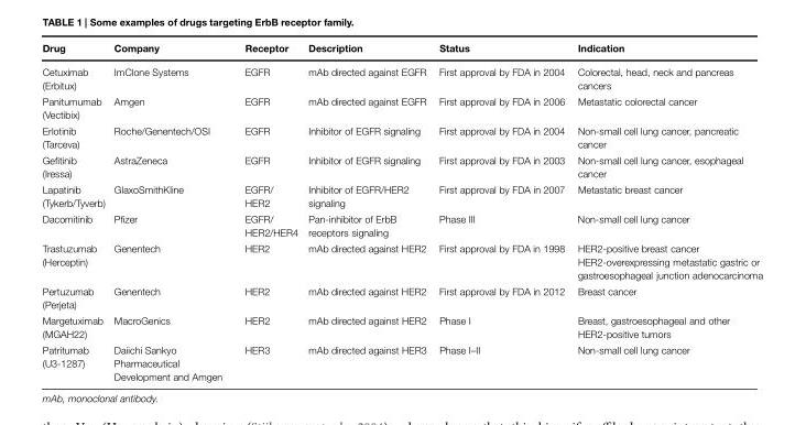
<table><thead><tr><td>Drug</td><td>Company</td><td>Receptor</td><td>Description</td><td>Status</td><td>Indication</td></tr></thead><tbody><tr><td>Cetuximab (Erbitux)</td><td>ImClone Systems</td><td>EGFR</td><td>mAb directed against EGFR</td><td>First approval by FDA in 2004</td><td>Colorectal, head, neck and pancreas cancers</td></tr><tr><td>Panitumumab (Vectibix)</td><td>Amgen</td><td>EGFR</td><td>mAb directed against EGFR</td><td>First approval by FDA in 2006</td><td>Metastatic colorectal cancer</td></tr><tr><td>Erlotinib (Tarceva)</td><td>Roche/Genentech/OSI</td><td>EGFR</td><td>Inhibitor of EGFR signaling</td><td>First approval by FDA in 2004</td><td>Non-small cell lung cancer, pancreatic cancer</td></tr><tr><td>Gefitinib (Iressa)</td><td>AstraZeneca</td><td>EGFR</td><td>Inhibitor of EGFR signaling</td><td>First approval by FDA in 2003</td><td>Non-small cell lung cancer, esophageal cancer</td></tr><tr><td>Lapatinib (Tykerb/Tyverb)</td><td>GlaxoSmithKline</td><td>EGFR/ HER2</td><td>Inhibitor of EGFR/HER2 signaling</td><td>First approval by FDA in 2007</td><td>Metastatic breast cancer</td></tr><tr><td>Dacomitinib</td><td>Pfizer</td><td>EGFR/ HER2/HER4</td><td>Pan-inhibitor of ErbB receptors signaling</td><td>Phase III</td><td>Non-small cell lung cancer</td></tr><tr><td>Trastuzumab (Herceptin)</td><td>Genentech</td><td>HER2</td><td>mAb directed against HER2</td><td>First approval by FDA in 1998</td><td>HER2-positive breast cancer HER2-overexpressing metastatic gastric or gastroesophageal junction adenocarcinoma</td></tr><tr><td>Pertuzumab (Perjeta)</td><td>Genentech</td><td>HER2</td><td>mAb directed against HER2</td><td>First approval by FDA in 2012</td><td>Breast cancer</td></tr><tr><td>Margetuximab (MGAH22)</td><td>MacroGenics</td><td>HER2</td><td>mAb directed against HER2</td><td>Phase I</td><td>Breast, gastroesophageal and other HER2-positive tumors</td></tr><tr><td>Patritumab (U3-1287)</td><td>Daiichi Sankyo Pharmaceutical Development and Amgen</td><td>HER3</td><td>mAb directed against HER3</td><td>Phase I–II</td><td>Non-small cell lung cancer</td></tr></tbody></table>